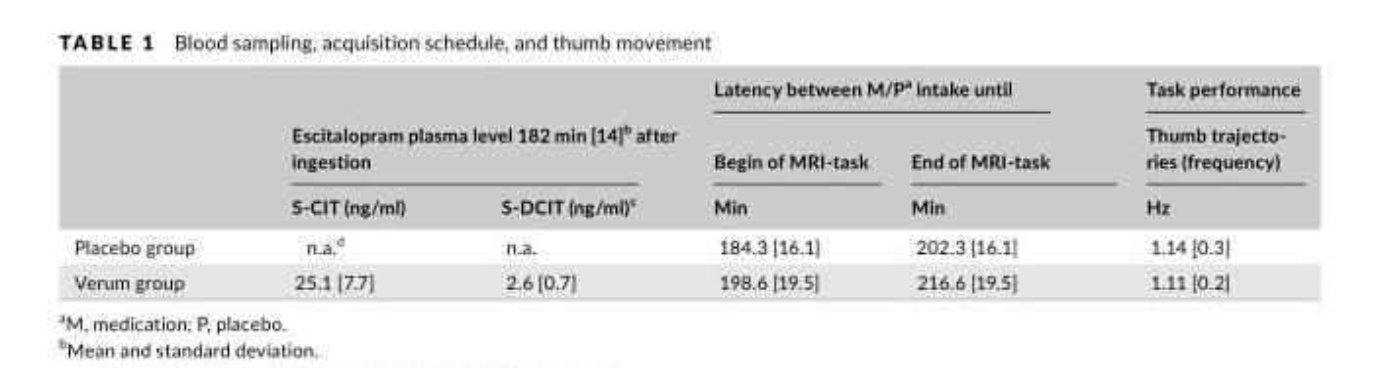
<table><thead><tr><td rowspan="3"></td><td rowspan="2" colspan="2">Escitalopram plasma level 182 min [14]<sup>b</sup> after ingestion</td><td colspan="2">Latency between M/P<sup>a</sup> intake until</td><td rowspan="3">Task performance Thumb trajecto- ries (frequency) Hz</td></tr><tr><td rowspan="2">Begin of MRI- task Min</td><td rowspan="2">End of MRI- task Min</td></tr><tr><td>S- CIT (ng/ml)</td><td>S- DCIT (ng/ml)<sup>c</sup></td></tr></thead><tbody><tr><td>Placebo group</td><td>n.a.<sup>d</sup></td><td>n.a.</td><td>184.3 [16.1]</td><td>202.3 [16.1]</td><td>1.14 [0.3]</td></tr><tr><td>Verum group</td><td>25.1 [7.7]</td><td>2.6 [0.7]</td><td>198.6 [19.5]</td><td>216.6 [19.5]</td><td>1.11 [0.2]</td></tr></tbody></table>